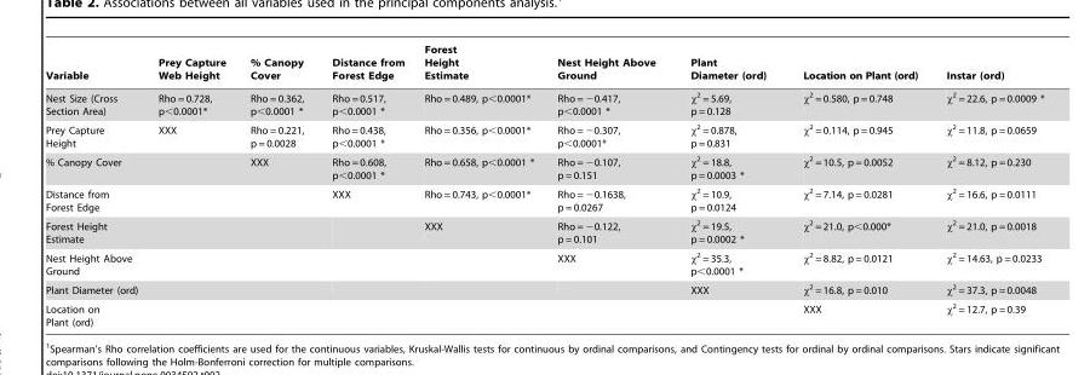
<table><thead><tr><td>Variable</td><td>Prey Capture Web Height</td><td>% Canopy Cover</td><td>Distance from Forest Edge</td><td>Forest Height Estimate</td><td>Nest Height Above Ground</td><td>Plant Diameter (ord)</td><td>Location on Plant (ord)</td><td>Instar (ord)</td></tr></thead><tbody><tr><td>Nest Size (Cross Section Area)</td><td>Rho = 0.728, p&lt;0.0001*</td><td>Rho = 0.362, p&lt;0.0001 *</td><td>Rho = 0.517, p&lt;0.0001 *</td><td>Rho = 0.489, p&lt;0.0001*</td><td>Rho = −0.417, p&lt;0.0001 *</td><td>χ<sup>2</sup> = 5.69, p = 0.128</td><td>χ<sup>2</sup> = 0.580, p = 0.748</td><td>χ<sup>2</sup> = 22.6, p = 0.0009 *</td></tr><tr><td>Prey Capture Height</td><td>XXX</td><td>Rho = 0.221, p = 0.0028</td><td>Rho = 0.438, p&lt;0.0001 *</td><td>Rho = 0.356, p&lt;0.0001*</td><td>Rho = −0.307, p&lt;0.0001*</td><td>χ<sup>2</sup> = 0.878, p = 0.831</td><td>χ<sup>2</sup> = 0.114, p = 0.945</td><td>χ<sup>2</sup> = 11.8, p = 0.0659</td></tr><tr><td>% Canopy Cover</td><td></td><td>XXX</td><td>Rho = 0.608, p&lt;0.0001 *</td><td>Rho = 0.658, p&lt;0.0001 *</td><td>Rho = −0.107, p = 0.151</td><td>χ<sup>2</sup> = 18.8, p = 0.0003 *</td><td>χ<sup>2</sup> = 10.5, p = 0.0052</td><td>χ<sup>2</sup> = 8.12, p = 0.230</td></tr><tr><td>Distance from Forest Edge</td><td></td><td></td><td>XXX</td><td>Rho = 0.743, p&lt;0.0001*</td><td>Rho = −0.1638, p = 0.0267</td><td>χ<sup>2</sup> = 10.9, p = 0.0124</td><td>χ<sup>2</sup> = 7.14, p = 0.0281</td><td>χ<sup>2</sup> = 16.6, p = 0.0111</td></tr><tr><td>Forest Height Estimate</td><td></td><td></td><td></td><td>XXX</td><td>Rho = −0.122, p = 0.101</td><td>χ<sup>2</sup> = 19.5, p = 0.0002 *</td><td>χ<sup>2</sup> = 21.0, p&lt;0.000*</td><td>χ<sup>2</sup> = 21.0, p = 0.0018</td></tr><tr><td>Nest Height Above Ground</td><td></td><td></td><td></td><td></td><td>XXX</td><td>χ<sup>2</sup> = 35.3, p&lt;0.0001 *</td><td>χ<sup>2</sup> = 8.82, p = 0.0121</td><td>χ<sup>2</sup> = 14.63, p = 0.0233</td></tr><tr><td>Plant Diameter (ord)</td><td></td><td></td><td></td><td></td><td></td><td>XXX</td><td>χ<sup>2</sup> = 16.8, p = 0.010</td><td>χ<sup>2</sup> = 37.3, p = 0.0048</td></tr><tr><td>Location on Plant (ord)</td><td></td><td></td><td></td><td></td><td></td><td></td><td>XXX</td><td>χ<sup>2</sup> = 12.7, p = 0.39</td></tr></tbody></table>